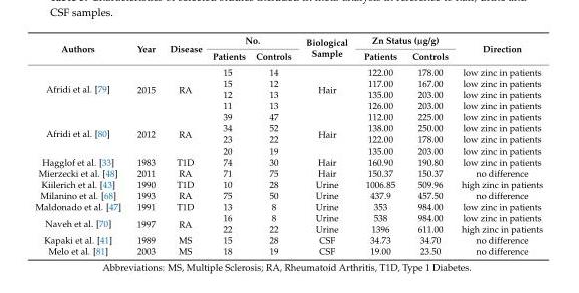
<table><thead><tr><td rowspan="2">Authors</td><td rowspan="2">Year</td><td rowspan="2">Disease</td><td colspan="2">No.</td><td rowspan="2">Biological Sample</td><td colspan="2">Zn Status (µg/g)</td><td rowspan="2">Direction</td></tr><tr><td>Patients</td><td>Controls</td><td>Patients</td><td>Controls</td></tr></thead><tbody><tr><td rowspan="4">Afridi et al. [79]</td><td rowspan="4">2015</td><td rowspan="4">RA</td><td>15</td><td>14</td><td rowspan="4">Hair</td><td>122.00</td><td>178.00</td><td>low zinc in patients</td></tr><tr><td>15</td><td>12</td><td>117.00</td><td>167.00</td><td>low zinc in patients</td></tr><tr><td>12</td><td>13</td><td>135.00</td><td>203.00</td><td>low zinc in patients</td></tr><tr><td>11</td><td>13</td><td>126.00</td><td>203.00</td><td>low zinc in patients</td></tr><tr><td rowspan="4">Afridi et al. [80]</td><td rowspan="4">2012</td><td rowspan="4">RA</td><td>39</td><td>47</td><td rowspan="4">Hair</td><td>112.00</td><td>225.00</td><td>low zinc in patients</td></tr><tr><td>34</td><td>52</td><td>138.00</td><td>250.00</td><td>low zinc in patients</td></tr><tr><td>23</td><td>22</td><td>122.00</td><td>178.00</td><td>low zinc in patients</td></tr><tr><td>20</td><td>19</td><td>135.00</td><td>203.00</td><td>low zinc in patients</td></tr><tr><td>Hagglof et al. [33]</td><td>1983</td><td>T1D</td><td>74</td><td>30</td><td>Hair</td><td>160.90</td><td>190.80</td><td>low zinc in patients</td></tr><tr><td>Mierzecki et al. [48]</td><td>2011</td><td>RA</td><td>71</td><td>75</td><td>Hair</td><td>150.37</td><td>150.37</td><td>no difference</td></tr><tr><td>Kiilerich et al. [43]</td><td>1990</td><td>T1D</td><td>10</td><td>28</td><td>Urine</td><td>1006.85</td><td>509.96</td><td>high zinc in patients</td></tr><tr><td>Milanino et al. [68]</td><td>1993</td><td>RA</td><td>75</td><td>50</td><td>Urine</td><td>437.9</td><td>457.50</td><td>no difference</td></tr><tr><td>Maldonado et al. [47]</td><td>1991</td><td>T1D</td><td>13</td><td>8</td><td>Urine</td><td>353</td><td>984.00</td><td>low zinc in patients</td></tr><tr><td rowspan="2">Naveh et al. [70]</td><td rowspan="2">1997</td><td rowspan="2">RA</td><td>16</td><td>8</td><td>Urine</td><td>538</td><td>984.00</td><td>low zinc in patients</td></tr><tr><td>22</td><td>22</td><td>Urine</td><td>1396</td><td>611.00</td><td>high zinc in patients</td></tr><tr><td>Kapaki et al. [41]</td><td>1989</td><td>MS</td><td>15</td><td>28</td><td>CSF</td><td>34.73</td><td>34.70</td><td>no difference</td></tr><tr><td>Melo et al. [81]</td><td>2003</td><td>MS</td><td>18</td><td>19</td><td>CSF</td><td>19.00</td><td>23.50</td><td>no difference</td></tr></tbody></table>